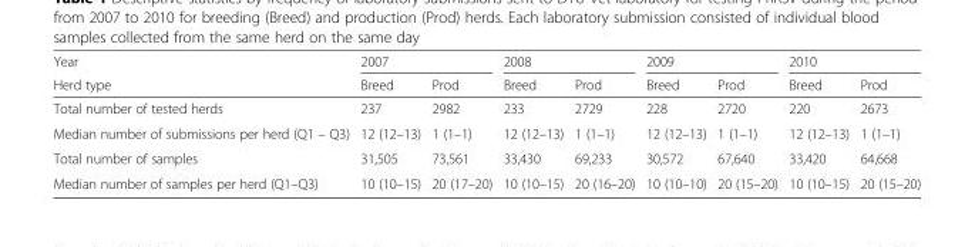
<table><thead><tr><td rowspan="2">Year Herd type</td><td colspan="2">2007</td><td colspan="2">2008</td><td colspan="2">2009</td><td colspan="2">2010</td></tr><tr><td>Breed</td><td>Prod</td><td>Breed</td><td>Prod</td><td>Breed</td><td>Prod</td><td>Breed</td><td>Prod</td></tr></thead><tbody><tr><td>Total number of tested herds</td><td>237</td><td>2982</td><td>233</td><td>2729</td><td>228</td><td>2720</td><td>220</td><td>2673</td></tr><tr><td>Median number of submissions per herd (Q1 – Q3)</td><td>12 (12–13)</td><td>1 (1–1)</td><td>12 (12–13)</td><td>1 (1–1)</td><td>12 (12–13)</td><td>1 (1–1)</td><td>12 (12–13)</td><td>1 (1–1)</td></tr><tr><td>Total number of samples</td><td>31,505</td><td>73,561</td><td>33,430</td><td>69,233</td><td>30,572</td><td>67,640</td><td>33,420</td><td>64,668</td></tr><tr><td>Median number of samples per herd (Q1–Q3)</td><td>10 (10–15)</td><td>20 (17–20)</td><td>10 (10–15)</td><td>20 (16–20)</td><td>10 (10–10)</td><td>20 (15–20)</td><td>10 (10–15)</td><td>20 (15–20)</td></tr></tbody></table>